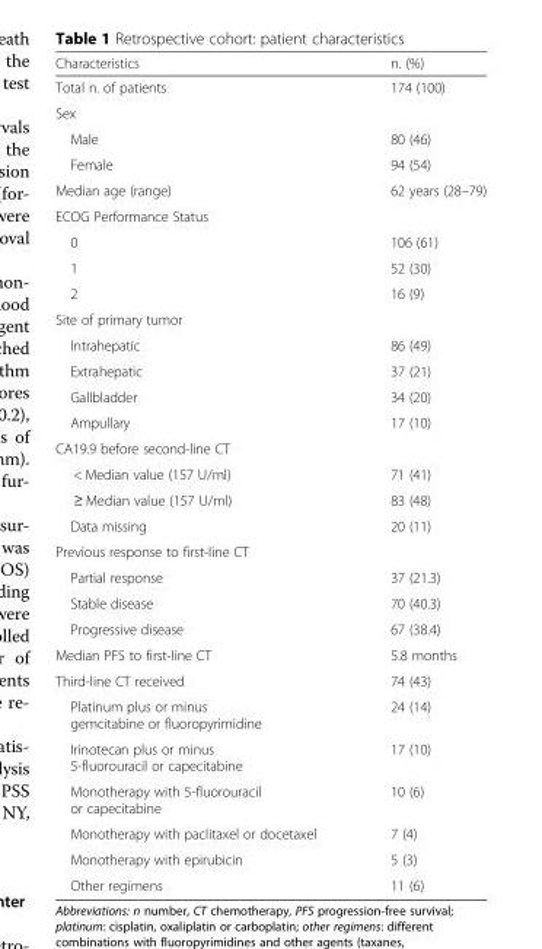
<table><thead><tr><td>Characteristics</td><td>n. (%)</td></tr></thead><tbody><tr><td>Total n. of patients</td><td>174 (100)</td></tr><tr><td colspan="2">Sex</td></tr><tr><td>Male</td><td>80 (46)</td></tr><tr><td>Female</td><td>94 (54)</td></tr><tr><td>Median age (range)</td><td>62 years (28–79)</td></tr><tr><td colspan="2">ECOG Performance Status</td></tr><tr><td>0</td><td>106 (61)</td></tr><tr><td>1</td><td>52 (30)</td></tr><tr><td>2</td><td>16 (9)</td></tr><tr><td colspan="2">Site of primary tumor</td></tr><tr><td>Intrahepatic</td><td>86 (49)</td></tr><tr><td>Extrahepatic</td><td>37 (21)</td></tr><tr><td>Gallbladder</td><td>34 (20)</td></tr><tr><td>Ampullary</td><td>17 (10)</td></tr><tr><td colspan="2">CA19.9 before second-line CT</td></tr><tr><td>&lt; Median value (157 U/ml)</td><td>71 (41)</td></tr><tr><td>≥ Median value (157 U/ml)</td><td>83 (48)</td></tr><tr><td>Data missing</td><td>20 (11)</td></tr><tr><td colspan="2">Previous response to first-line CT</td></tr><tr><td>Partial response</td><td>37 (21.3)</td></tr><tr><td>Stable disease</td><td>70 (40.3)</td></tr><tr><td>Progressive disease</td><td>67 (38.4)</td></tr><tr><td>Median PFS to first-line CT</td><td>5.8 months</td></tr><tr><td>Third-line CT received</td><td>74 (43)</td></tr><tr><td>Platinum plus or minus gemcitabine or fluoropyrimidine</td><td>24 (14)</td></tr><tr><td>Irinotecan plus or minus 5-fluorouracil or capecitabine</td><td>17 (10)</td></tr><tr><td>Monotherapy with 5-fluorouracil or capecitabine</td><td>10 (6)</td></tr><tr><td>Monotherapy with paclitaxel or docetaxel</td><td>7 (4)</td></tr><tr><td>Monotherapy with epirubicin</td><td>5 (3)</td></tr><tr><td>Other regimens</td><td>11 (6)</td></tr></tbody></table>